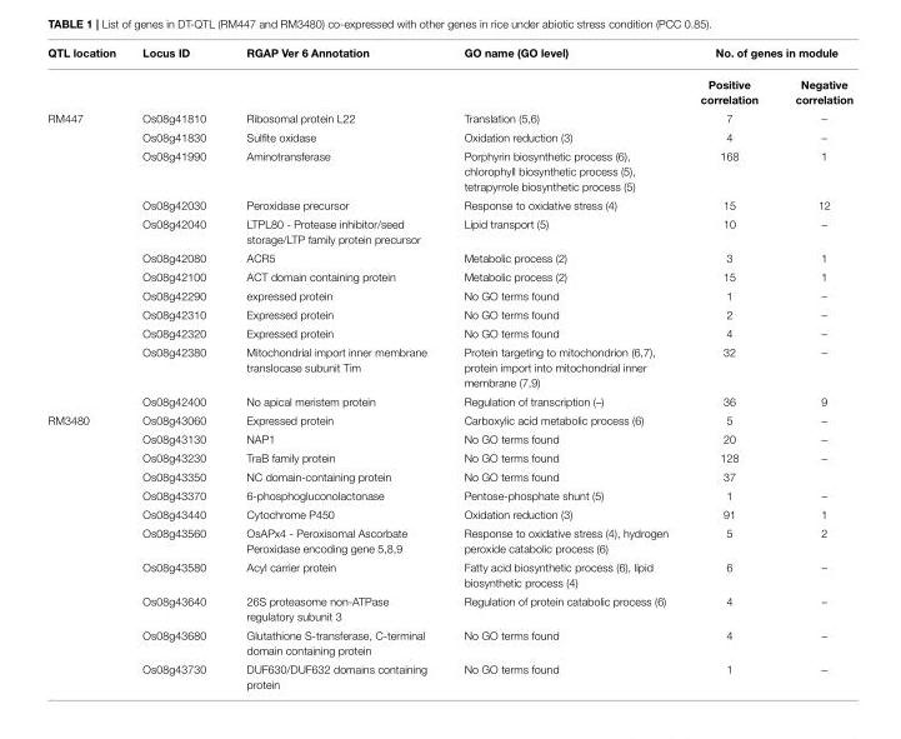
<table><thead><tr><td rowspan="2">QTL location</td><td rowspan="2">Locus ID</td><td rowspan="2">RGAP Ver 6 Annotation</td><td rowspan="2">GO name (GO level)</td><td colspan="2">No. of genes in module</td></tr><tr><td>Positive correlation</td><td>Negative correlation</td></tr></thead><tbody><tr><td rowspan="12">RM447</td><td>Os08g41810</td><td>Ribosomal protein L22</td><td>Translation (5,6)</td><td>7</td><td>–</td></tr><tr><td>Os08g41830</td><td>Sulfite oxidase</td><td>Oxidation reduction (3)</td><td>4</td><td>–</td></tr><tr><td>Os08g41990</td><td>Aminotransferase</td><td>Porphyrin biosynthetic process (6), chlorophyll biosynthetic process (5), tetrapyrrole biosynthetic process (5)</td><td>168</td><td>1</td></tr><tr><td>Os08g42030</td><td>Peroxidase precursor</td><td>Response to oxidative stress (4)</td><td>15</td><td>12</td></tr><tr><td>Os08g42040</td><td>LTPL80 - Protease inhibitor/seed storage/LTP family protein precursor</td><td>Lipid transport (5)</td><td>10</td><td>–</td></tr><tr><td>Os08g42080</td><td>ACR5</td><td>Metabolic process (2)</td><td>3</td><td>1</td></tr><tr><td>Os08g42100</td><td>ACT domain containing protein</td><td>Metabolic process (2)</td><td>15</td><td>1</td></tr><tr><td>Os08g42290</td><td>expressed protein</td><td>No GO terms found</td><td>1</td><td>–</td></tr><tr><td>Os08g42310</td><td>Expressed protein</td><td>No GO terms found</td><td>2</td><td>–</td></tr><tr><td>Os08g42320</td><td>Expressed protein</td><td>No GO terms found</td><td>4</td><td>–</td></tr><tr><td>Os08g42380</td><td>Mitochondrial import inner membrane translocase subunit Tim</td><td>Protein targeting to mitochondrion (6,7), protein import into mitochondrial inner membrane (7,9)</td><td>32</td><td>–</td></tr><tr><td>Os08g42400</td><td>No apical meristem protein</td><td>Regulation of transcription (–)</td><td>36</td><td>9</td></tr><tr><td rowspan="11">RM3480</td><td>Os08g43060</td><td>Expressed protein</td><td>Carboxylic acid metabolic process (6)</td><td>5</td><td>–</td></tr><tr><td>Os08g43130</td><td>NAP1</td><td>No GO terms found</td><td>20</td><td>–</td></tr><tr><td>Os08g43230</td><td>TraB family protein</td><td>No GO terms found</td><td>128</td><td>–</td></tr><tr><td>Os08g43350</td><td>NC domain-containing protein</td><td>No GO terms found</td><td>37</td><td></td></tr><tr><td>Os08g43370</td><td>6-phosphogluconolactonase</td><td>Pentose-phosphate shunt (5)</td><td>1</td><td>–</td></tr><tr><td>Os08g43440</td><td>Cytochrome P450</td><td>Oxidation reduction (3)</td><td>91</td><td>1</td></tr><tr><td>Os08g43560</td><td>OsAPx4 - Peroxisomal Ascorbate Peroxidase encoding gene 5,8,9</td><td>Response to oxidative stress (4), hydrogen peroxide catabolic process (6)</td><td>5</td><td>2</td></tr><tr><td>Os08g43580</td><td>Acyl carrier protein</td><td>Fatty acid biosynthetic process (6), lipid biosynthetic process (4)</td><td>6</td><td>–</td></tr><tr><td>Os08g43640</td><td>26S proteasome non-ATPase regulatory subunit 3</td><td>Regulation of protein catabolic process (6)</td><td>4</td><td>–</td></tr><tr><td>Os08g43680</td><td>Glutathione S-transferase, C-terminal domain containing protein</td><td>No GO terms found</td><td>4</td><td>–</td></tr><tr><td>Os08g43730</td><td>DUF630/DUF632 domains containing protein</td><td>No GO terms found</td><td>1</td><td>–</td></tr></tbody></table>